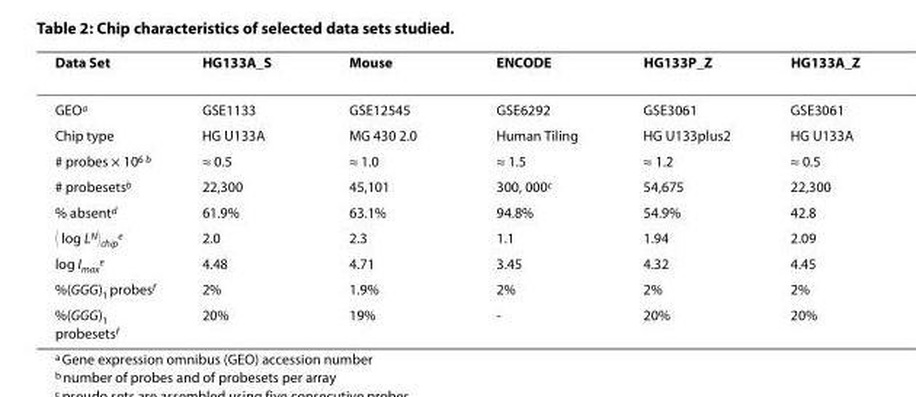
<table><thead><tr><td>Data Set</td><td>HG133A_S</td><td>Mouse</td><td>ENCODE</td><td>HG133P_Z</td><td>HG133A_Z</td></tr></thead><tbody><tr><td>GEO<sup>a</sup></td><td>GSE1133</td><td>GSE12545</td><td>GSE6292</td><td>GSE3061</td><td>GSE3061</td></tr><tr><td>Chip type</td><td>HG U133A</td><td>MG 430 2.0</td><td>Human Tiling</td><td>HG U133plus2</td><td>HG U133A</td></tr><tr><td># probes × 10<sup>6 b</sup></td><td>≈ 0.5</td><td>≈ 1.0</td><td>≈ 1.5</td><td>≈ 1.2</td><td>≈ 0.5</td></tr><tr><td># probesets<sup>b</sup></td><td>22,300</td><td>45,101</td><td>300, 000<sup>c</sup></td><td>54,675</td><td>22,300</td></tr><tr><td>% absent<sup>d</sup></td><td>61.9%</td><td>63.1%</td><td>94.8%</td><td>54.9%</td><td>42.8</td></tr><tr><td>⟨ log L<sup>N</sup>⟩<sub>chip</sub><sup>e</sup></td><td>2.0</td><td>2.3</td><td>1.1</td><td>1.94</td><td>2.09</td></tr><tr><td>log I<sub>max</sub><sup>e</sup></td><td>4.48</td><td>4.71</td><td>3.45</td><td>4.32</td><td>4.45</td></tr><tr><td>%(GGG)<sub>1</sub> probes<sup>f</sup></td><td>2%</td><td>1.9%</td><td>2%</td><td>2%</td><td>2%</td></tr><tr><td>%(GGG)<sub>1</sub> probesets<sup>f</sup></td><td>20%</td><td>19%</td><td>-</td><td>20%</td><td>20%</td></tr></tbody></table>